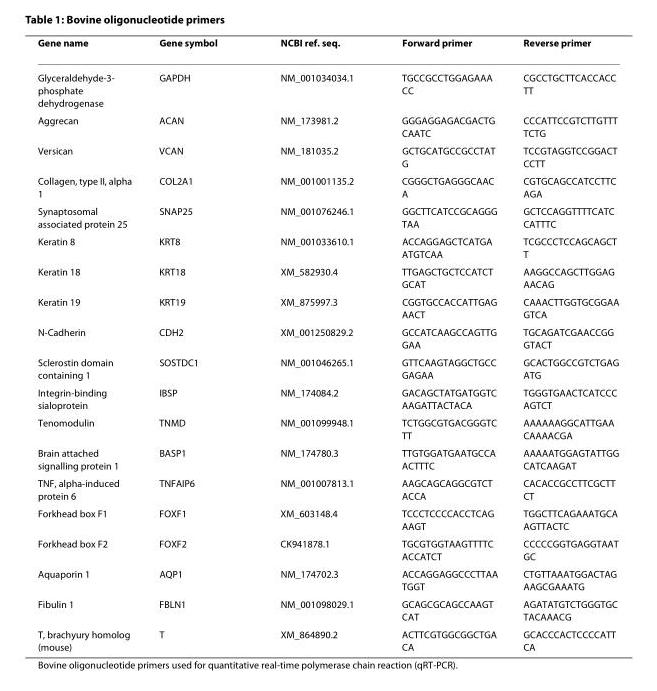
<table><thead><tr><td>Gene name</td><td>Gene symbol</td><td>NCBI ref. seq.</td><td>Forward primer</td><td>Reverse primer</td></tr></thead><tbody><tr><td>Glyceraldehyde-3- phosphate dehydrogenase</td><td>GAPDH</td><td>NM_001034034.1</td><td>TGCCGCCTGGAGAAA CC</td><td>CGCCTGCTTCACCACC TT</td></tr><tr><td>Aggrecan</td><td>ACAN</td><td>NM_173981.2</td><td>GGGAGGAGACGACTG CAATC</td><td>CCCATTCCGTCTTGTTT TCTG</td></tr><tr><td>Versican</td><td>VCAN</td><td>NM_181035.2</td><td>GCTGCATGCCGCCTAT G</td><td>TCCGTAGGTCCGGACT CCTT</td></tr><tr><td>Collagen, type II, alpha 1</td><td>COL2A1</td><td>NM_001001135.2</td><td>CGGGCTGAGGGCAAC A</td><td>CGTGCAGCCATCCTTC AGA</td></tr><tr><td>Synaptosomal associated protein 25</td><td>SNAP25</td><td>NM_001076246.1</td><td>GGCTTCATCCGCAGGG TAA</td><td>GCTCCAGGTTTTCATC CATTTC</td></tr><tr><td>Keratin 8</td><td>KRT8</td><td>NM_001033610.1</td><td>ACCAGGAGCTCATGA ATGTCAA</td><td>TCGCCCTCCAGCAGCT T</td></tr><tr><td>Keratin 18</td><td>KRT18</td><td>XM_582930.4</td><td>TTGAGCTGCTCCATCT GCAT</td><td>AAGGCCAGCTTGGAG AACAG</td></tr><tr><td>Keratin 19</td><td>KRT19</td><td>XM_875997.3</td><td>CGGTGCCACCATTGAG AACT</td><td>CAAACTTGGTGCGGAA GTCA</td></tr><tr><td>N-Cadherin</td><td>CDH2</td><td>XM_001250829.2</td><td>GCCATCAAGCCAGTTG GAA</td><td>TGCAGATCGAACCGG GTACT</td></tr><tr><td>Sclerostin domain containing 1</td><td>SOSTDC1</td><td>NM_001046265.1</td><td>GTTCAAGTAGGCTGCC GAGAA</td><td>GCACTGGCCGTCTGAG ATG</td></tr><tr><td>Integrin-binding sialoprotein</td><td>IBSP</td><td>NM_174084.2</td><td>GACAGCTATGATGGTC AAGATTACTACA</td><td>TGGGTGAACTCATCCC AGTCT</td></tr><tr><td>Tenomodulin</td><td>TNMD</td><td>NM_001099948.1</td><td>TCTGGCGTGACGGGTC TT</td><td>AAAAAAGGCATTGAA CAAAACGA</td></tr><tr><td>Brain attached signalling protein 1</td><td>BASP1</td><td>NM_174780.3</td><td>TTGTGGATGAATGCCA ACTTTC</td><td>AAAAATGGAGTATTGG CATCAAGAT</td></tr><tr><td>TNF, alpha-induced protein 6</td><td>TNFAIP6</td><td>NM_001007813.1</td><td>AAGCAGCAGGCGTCT ACCA</td><td>CACACCGCCTTCGCTT CT</td></tr><tr><td>Forkhead box F1</td><td>FOXF1</td><td>XM_603148.4</td><td>TCCCTCCCCACCTCAG AAGT</td><td>TGGCTTCAGAAATGCA AGTTACTC</td></tr><tr><td>Forkhead box F2</td><td>FOXF2</td><td>CK941878.1</td><td>TGCGTGGTAAGTTTTC ACCATCT</td><td>CCCCCGGTGAGGTAAT GC</td></tr><tr><td>Aquaporin 1</td><td>AQP1</td><td>NM_174702.3</td><td>ACCAGGAGGCCCTTAA TGGT</td><td>CTGTTAAATGGACTAG AAGCGAAATG</td></tr><tr><td>Fibulin 1</td><td>FBLN1</td><td>NM_001098029.1</td><td>GCAGCGCAGCCAAGT CAT</td><td>AGATATGTCTGGGTGC TACAAACG</td></tr><tr><td>T, brachyury homolog (mouse)</td><td>T</td><td>XM_864890.2</td><td>ACTTCGTGGCGGCTGA CA</td><td>GCACCCACTCCCCATT CA</td></tr></tbody></table>